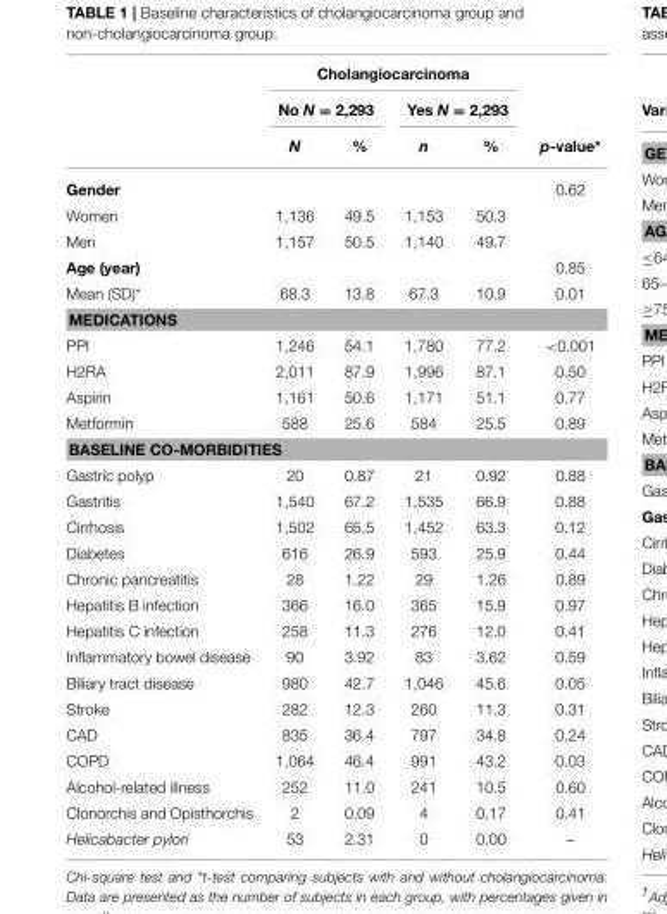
<table><thead><tr><td rowspan="3"></td><td colspan="4">Cholangiocarcinoma</td><td rowspan="3">p-value*</td></tr><tr><td colspan="2">No N = 2,293</td><td colspan="2">Yes N = 2,293</td></tr><tr><td>N</td><td>%</td><td>n</td><td>%</td></tr></thead><tbody><tr><td>Gender</td><td></td><td></td><td></td><td></td><td>0.62</td></tr><tr><td>Women</td><td>1,136</td><td>49.5</td><td>1,153</td><td>50.3</td><td></td></tr><tr><td>Men</td><td>1,157</td><td>50.5</td><td>1,140</td><td>49.7</td><td></td></tr><tr><td>Age (year)</td><td></td><td></td><td></td><td></td><td>0.85</td></tr><tr><td>Mean (SD)*</td><td>68.3</td><td>13.8</td><td>67.3</td><td>10.9</td><td>0.01</td></tr><tr><td colspan="6">MEDICATIONS</td></tr><tr><td>PPI</td><td>1,246</td><td>54.1</td><td>1,780</td><td>77.2</td><td>&lt;0.001</td></tr><tr><td>H2RA</td><td>2,011</td><td>87.9</td><td>1,996</td><td>87.1</td><td>0.50</td></tr><tr><td>Aspirin</td><td>1,161</td><td>50.6</td><td>1,171</td><td>51.1</td><td>0.77</td></tr><tr><td>Metformin</td><td>588</td><td>25.6</td><td>584</td><td>25.5</td><td>0.89</td></tr><tr><td colspan="6">BASELINE CO-MORBIDITIES</td></tr><tr><td>Gastric polyp</td><td>20</td><td>0.87</td><td>21</td><td>0.92</td><td>0.88</td></tr><tr><td>Gastritis</td><td>1,540</td><td>67.2</td><td>1,535</td><td>66.9</td><td>0.88</td></tr><tr><td>Cirrhosis</td><td>1,502</td><td>65.5</td><td>1,452</td><td>63.3</td><td>0.12</td></tr><tr><td>Diabetes</td><td>616</td><td>26.9</td><td>593</td><td>25.9</td><td>0.44</td></tr><tr><td>Chronic pancreatitis</td><td>28</td><td>1.22</td><td>29</td><td>1.26</td><td>0.89</td></tr><tr><td>Hepatitis B infection</td><td>366</td><td>16.0</td><td>365</td><td>15.9</td><td>0.97</td></tr><tr><td>Hepatitis C infection</td><td>258</td><td>11.3</td><td>276</td><td>12.0</td><td>0.41</td></tr><tr><td>Inflammatory bowel disease</td><td>90</td><td>3.92</td><td>83</td><td>3.62</td><td>0.59</td></tr><tr><td>Biliary tract disease</td><td>980</td><td>42.7</td><td>1,046</td><td>45.6</td><td>0.05</td></tr><tr><td>Stroke</td><td>282</td><td>12.3</td><td>260</td><td>11.3</td><td>0.31</td></tr><tr><td>CAD</td><td>835</td><td>36.4</td><td>797</td><td>34.8</td><td>0.24</td></tr><tr><td>COPD</td><td>1,064</td><td>46.4</td><td>991</td><td>43.2</td><td>0.03</td></tr><tr><td>Alcohol-related illness</td><td>252</td><td>11.0</td><td>241</td><td>10.5</td><td>0.60</td></tr><tr><td>Clonorchis and Opisthorchis</td><td>2</td><td>0.09</td><td>4</td><td>0.17</td><td>0.41</td></tr><tr><td>Helicabacter pylori</td><td>53</td><td>2.31</td><td>0</td><td>0.00</td><td>–</td></tr></tbody></table>